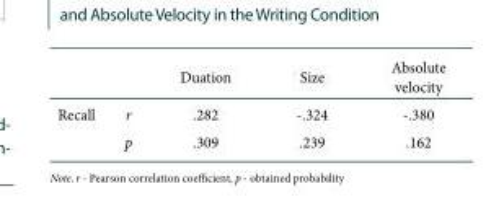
<table><thead><tr><td></td><td></td><td>Duation</td><td>Size</td><td>Absolute velocity</td></tr></thead><tbody><tr><td rowspan="2">Recall</td><td>r</td><td>.282</td><td>-.324</td><td>-.380</td></tr><tr><td>p</td><td>.309</td><td>.239</td><td>.162</td></tr></tbody></table>